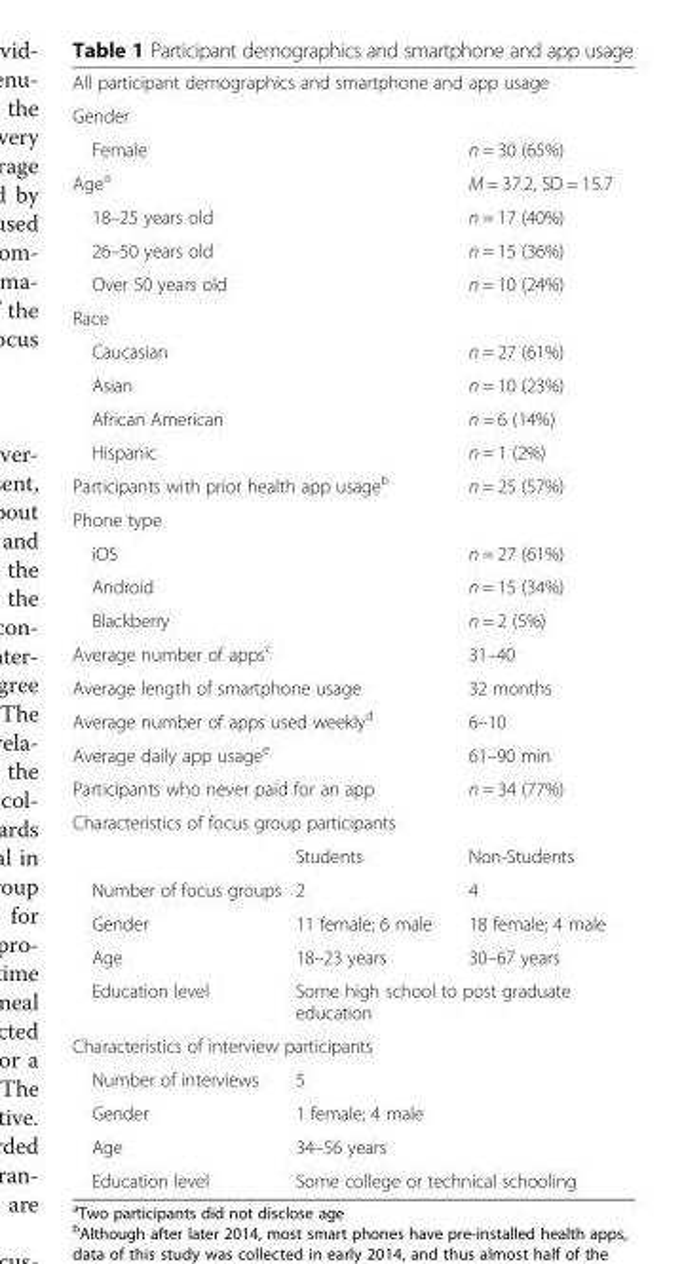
<table><tbody><tr><td colspan="3">All participant demographics and smartphone and app usage</td></tr><tr><td colspan="3">Gender</td></tr><tr><td colspan="2">Female</td><td>n = 30 (65%)</td></tr><tr><td colspan="2">Age<sup>a</sup></td><td>M = 37.2, SD = 15.7</td></tr><tr><td colspan="2">18–25 years old</td><td>n = 17 (40%)</td></tr><tr><td colspan="2">26–50 years old</td><td>n = 15 (36%)</td></tr><tr><td colspan="2">Over 50 years old</td><td>n = 10 (24%)</td></tr><tr><td colspan="3">Race</td></tr><tr><td colspan="2">Caucasian</td><td>n = 27 (61%)</td></tr><tr><td colspan="2">Asian</td><td>n = 10 (23%)</td></tr><tr><td colspan="2">African American</td><td>n = 6 (14%)</td></tr><tr><td colspan="2">Hispanic</td><td>n = 1 (2%)</td></tr><tr><td colspan="2">Participants with prior health app usage<sup>b</sup></td><td>n = 25 (57%)</td></tr><tr><td colspan="3">Phone type</td></tr><tr><td colspan="2">iOS</td><td>n = 27 (61%)</td></tr><tr><td colspan="2">Android</td><td>n = 15 (34%)</td></tr><tr><td colspan="2">Blackberry</td><td>n = 2 (5%)</td></tr><tr><td colspan="2">Average number of apps<sup>c</sup></td><td>31–40</td></tr><tr><td colspan="2">Average length of smartphone usage</td><td>32 months</td></tr><tr><td colspan="2">Average number of apps used weekly<sup>d</sup></td><td>6–10</td></tr><tr><td colspan="2">Average daily app usage<sup>e</sup></td><td>61–90 min</td></tr><tr><td colspan="2">Participants who never paid for an app</td><td>n = 34 (77%)</td></tr><tr><td colspan="3">Characteristics of focus group participants</td></tr><tr><td></td><td>Students</td><td>Non-Students</td></tr><tr><td>Number of focus groups</td><td>2</td><td>4</td></tr><tr><td>Gender</td><td>11 female; 6 male</td><td>18 female; 4 male</td></tr><tr><td>Age</td><td>18–23 years</td><td>30–67 years</td></tr><tr><td>Education level</td><td colspan="2">Some high school to post graduate education</td></tr><tr><td colspan="3">Characteristics of interview participants</td></tr><tr><td>Number of interviews</td><td colspan="2">5</td></tr><tr><td>Gender</td><td colspan="2">1 female; 4 male</td></tr><tr><td>Age</td><td colspan="2">34–56 years</td></tr><tr><td>Education level</td><td colspan="2">Some college or technical schooling</td></tr></tbody></table>